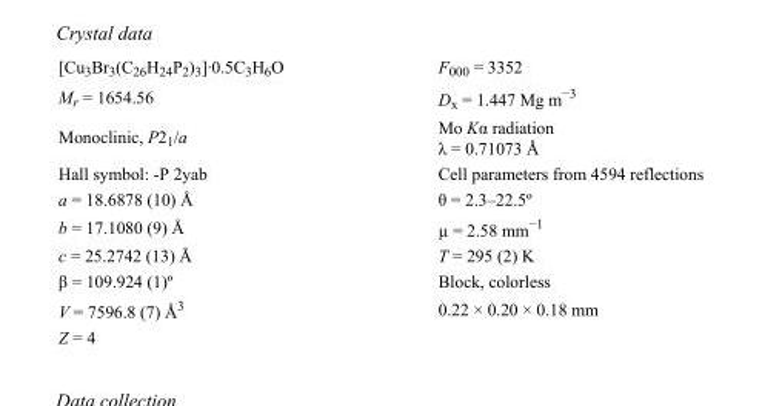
<table><tbody><tr><td>[Cu<sub>3</sub>Br<sub>3</sub>(C<sub>26</sub>H<sub>24</sub>P<sub>2</sub>)<sub>3</sub>]·0.5C<sub>3</sub>H<sub>6</sub>O</td><td>F000 = 3352</td></tr><tr><td>M<sub>r</sub> = 1654.56</td><td>D<sub>x</sub> = 1.447 Mg m<sup>−3</sup></td></tr><tr><td>Monoclinic, P2<sub>1</sub>/a</td><td>Mo Kα radiation λ = 0.71073 Å</td></tr><tr><td>Hall symbol: -P 2yab</td><td>Cell parameters from 4594 reflections</td></tr><tr><td>a = 18.6878 (10) Å</td><td>θ = 2.3–22.5º</td></tr><tr><td>b = 17.1080 (9) Å</td><td>µ = 2.58 mm<sup>−1</sup></td></tr><tr><td>c = 25.2742 (13) Å</td><td>T = 295 (2) K</td></tr><tr><td>β = 109.924 (1)º</td><td>Block, colorless</td></tr><tr><td>V = 7596.8 (7) Å<sup>3</sup></td><td>0.22 × 0.20 × 0.18 mm</td></tr><tr><td>Z = 4</td><td></td></tr></tbody></table>